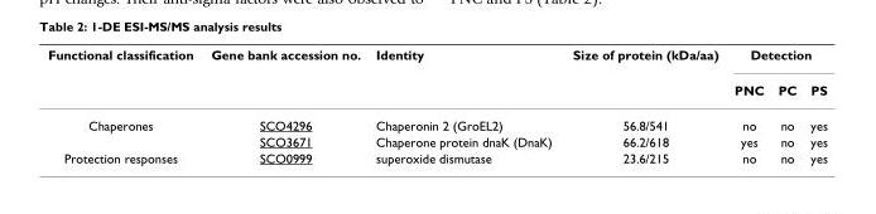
<table><thead><tr><td rowspan="2">Functional classification</td><td rowspan="2">Gene bank accession no.</td><td rowspan="2">Identity</td><td rowspan="2">Size of protein (kDa/aa)</td><td colspan="3">Detection</td></tr><tr><td>PNC</td><td>PC</td><td>PS</td></tr></thead><tbody><tr><td rowspan="2">Chaperones</td><td>SCO4296</td><td>Chaperonin 2 (GroEL2)</td><td>56.8/541</td><td>no</td><td>no</td><td>yes</td></tr><tr><td>SCO3671</td><td>Chaperone protein dnaK (DnaK)</td><td>66.2/618</td><td>yes</td><td>no</td><td>yes</td></tr><tr><td>Protection responses</td><td>SCO0999</td><td>superoxide dismutase</td><td>23.6/215</td><td>no</td><td>no</td><td>yes</td></tr></tbody></table>